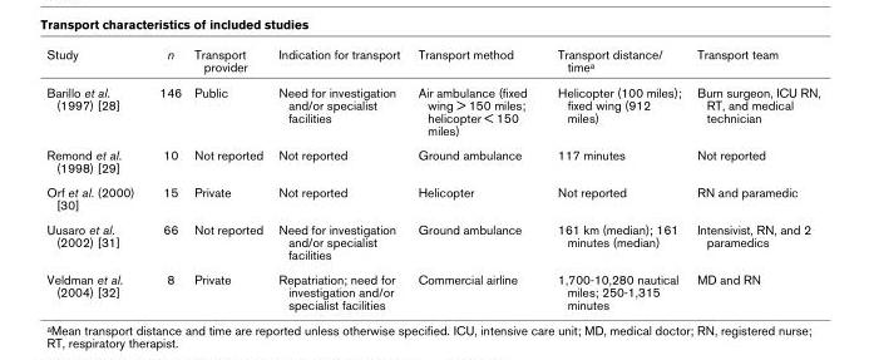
<table><thead><tr><td>Study</td><td>n</td><td>Transport provider</td><td>Indication for transport</td><td>Transport method</td><td>Transport distance/ timea</td><td>Transport team</td></tr></thead><tbody><tr><td>Barillo et al. (1997) [28]</td><td>146</td><td>Public</td><td>Need for investigation and/or specialist facilities</td><td>Air ambulance (fixed wing &gt; 150 miles; helicopter &lt; 150 miles)</td><td>Helicopter (100 miles); fixed wing (912 miles)</td><td>Burn surgeon, ICU RN, RT, and medical technician</td></tr><tr><td>Remond et al. (1998) [29]</td><td>10</td><td>Not reported</td><td>Not reported</td><td>Ground ambulance</td><td>117 minutes</td><td>Not reported</td></tr><tr><td>Orf et al. (2000) [30]</td><td>15</td><td>Private</td><td>Not reported</td><td>Helicopter</td><td>Not reported</td><td>RN and paramedic</td></tr><tr><td>Uusaro et al. (2002) [31]</td><td>66</td><td>Not reported</td><td>Need for investigation and/or specialist facilities</td><td>Ground ambulance</td><td>161 km (median); 161 minutes (median)</td><td>Intensivist, RN, and 2 paramedics</td></tr><tr><td>Veldman et al. (2004) [32]</td><td>8</td><td>Private</td><td>Repatriation; need for investigation and/or specialist facilities</td><td>Commercial airline</td><td>1,700-10,280 nautical miles; 250-1,315 minutes</td><td>MD and RN</td></tr></tbody></table>